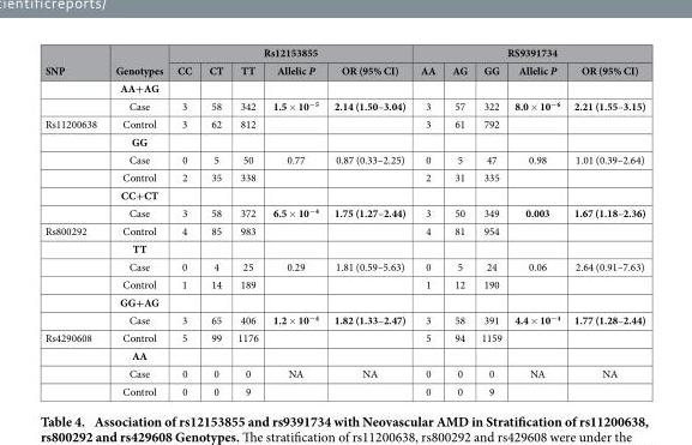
<table><thead><tr><td rowspan="2">SNP</td><td rowspan="2">Genotypes</td><td colspan="5">Rs12153855</td><td colspan="5">RS9391734</td></tr><tr><td>CC</td><td>CT</td><td>TT</td><td>Allelic P</td><td>OR (95% CI)</td><td>AA</td><td>AG</td><td>GG</td><td>Allelic P</td><td>OR (95% CI)</td></tr></thead><tbody><tr><td></td><td>AA+AG</td><td></td><td></td><td></td><td></td><td></td><td></td><td></td><td></td><td></td><td></td></tr><tr><td></td><td>Case</td><td>3</td><td>58</td><td>342</td><td>1.5 × 10<sup>−5</sup></td><td>2.14 (1.50–3.04)</td><td>3</td><td>57</td><td>322</td><td>8.0 × 10<sup>−6</sup></td><td>2.21 (1.55–3.15)</td></tr><tr><td rowspan="6">Rs11200638</td><td>Control</td><td>3</td><td>62</td><td>812</td><td></td><td></td><td>3</td><td>61</td><td>792</td><td></td><td></td></tr><tr><td>GG</td><td></td><td></td><td></td><td></td><td></td><td></td><td></td><td></td><td></td><td></td></tr><tr><td>Case</td><td>0</td><td>5</td><td>50</td><td>0.77</td><td>0.87 (0.33–2.25)</td><td>0</td><td>5</td><td>47</td><td>0.98</td><td>1.01 (0.39–2.64)</td></tr><tr><td>Control</td><td>2</td><td>35</td><td>338</td><td></td><td></td><td>2</td><td>31</td><td>335</td><td></td><td></td></tr><tr><td>CC+CT</td><td></td><td></td><td></td><td></td><td></td><td></td><td></td><td></td><td></td><td></td></tr><tr><td>Case</td><td>3</td><td>58</td><td>372</td><td>6.5 × 10<sup>−4</sup></td><td>1.75 (1.27–2.44)</td><td>3</td><td>50</td><td>349</td><td>0.003</td><td>1.67 (1.18–2.36)</td></tr><tr><td rowspan="6">Rs800292</td><td>Control</td><td>4</td><td>85</td><td>983</td><td></td><td></td><td>4</td><td>81</td><td>954</td><td></td><td></td></tr><tr><td>TT</td><td></td><td></td><td></td><td></td><td></td><td></td><td></td><td></td><td></td><td></td></tr><tr><td>Case</td><td>0</td><td>4</td><td>25</td><td>0.29</td><td>1.81 (0.59–5.63)</td><td>0</td><td>5</td><td>24</td><td>0.06</td><td>2.64 (0.91–7.63)</td></tr><tr><td>Control</td><td>1</td><td>14</td><td>189</td><td></td><td></td><td>1</td><td>12</td><td>190</td><td></td><td></td></tr><tr><td>GG+AG</td><td></td><td></td><td></td><td></td><td></td><td></td><td></td><td></td><td></td><td></td></tr><tr><td>Case</td><td>3</td><td>65</td><td>406</td><td>1.2 × 10<sup>−4</sup></td><td>1.82 (1.33–2.47)</td><td>3</td><td>58</td><td>391</td><td>4.4 × 10<sup>−4</sup></td><td>1.77 (1.28–2.44)</td></tr><tr><td rowspan="4">Rs4290608</td><td>Control</td><td>5</td><td>99</td><td>1176</td><td></td><td></td><td>5</td><td>94</td><td>1159</td><td></td><td></td></tr><tr><td>AA</td><td></td><td></td><td></td><td></td><td></td><td></td><td></td><td></td><td></td><td></td></tr><tr><td>Case</td><td>0</td><td>0</td><td>0</td><td>NA</td><td>NA</td><td>0</td><td>0</td><td>0</td><td>NA</td><td>NA</td></tr><tr><td>Control</td><td>0</td><td>0</td><td>9</td><td></td><td></td><td>0</td><td>0</td><td>9</td><td></td><td></td></tr></tbody></table>